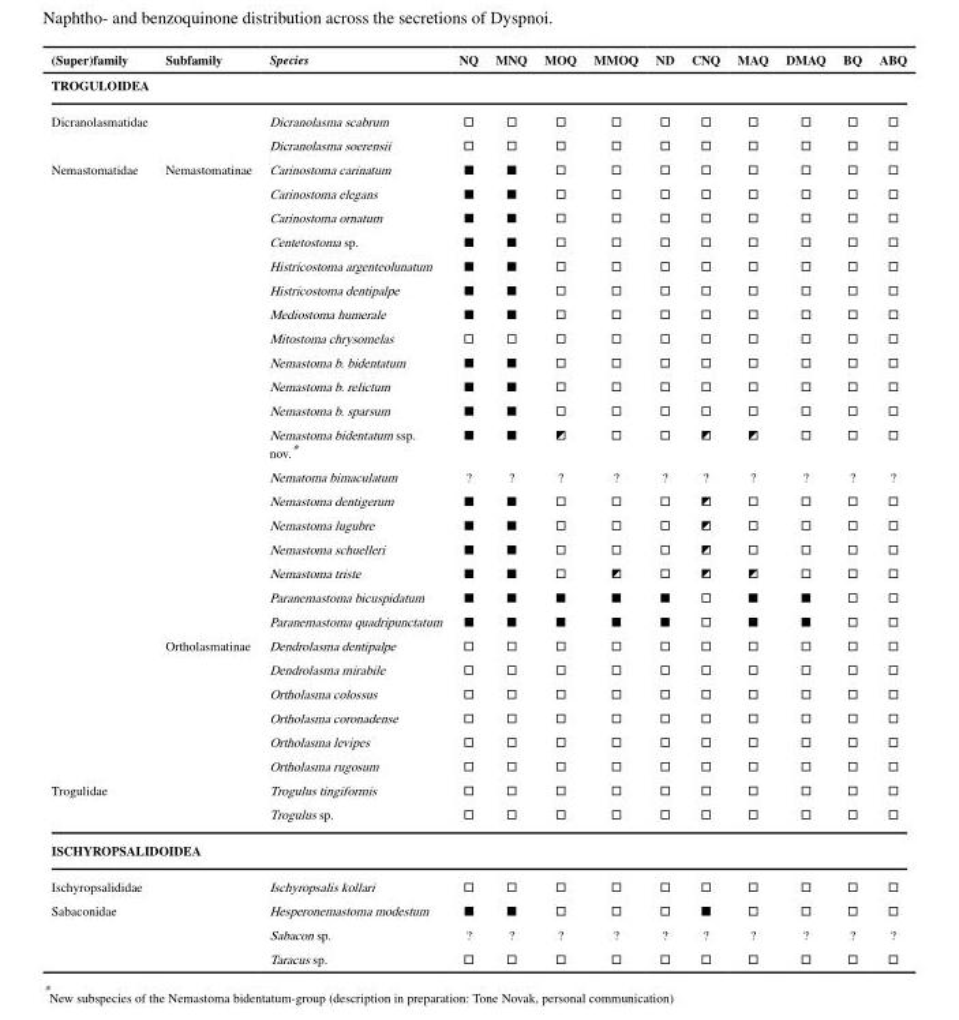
<table><thead><tr><td>(Super)family</td><td>Subfamily</td><td>Species</td><td>NQ</td><td>MNQ</td><td>MOQ</td><td>MMOQ</td><td>ND</td><td>CNQ</td><td>MAQ</td><td>DMAQ</td><td>BQ</td><td>ABQ</td></tr></thead><tbody><tr><td colspan="13">TROGULOIDEA</td></tr><tr><td rowspan="2">Dicranolasmatidae</td><td></td><td>Dicranolasma scabrum</td><td>□</td><td>□</td><td>□</td><td>□</td><td>□</td><td>□</td><td>□</td><td>□</td><td>□</td><td>□</td></tr><tr><td></td><td>Dicranolasma soerensii</td><td>□</td><td>□</td><td>□</td><td>□</td><td>□</td><td>□</td><td>□</td><td>□</td><td>□</td><td>□</td></tr><tr><td rowspan="25">Nemastomatidae</td><td>Nemastomatinae</td><td>Carinostoma carinatum</td><td>■</td><td>■</td><td>□</td><td>□</td><td>□</td><td>□</td><td>□</td><td>□</td><td>□</td><td>□</td></tr><tr><td></td><td>Carinostoma elegans</td><td>■</td><td>■</td><td>□</td><td>□</td><td>□</td><td>□</td><td>□</td><td>□</td><td>□</td><td>□</td></tr><tr><td></td><td>Carinostoma ornatum</td><td>■</td><td>■</td><td>□</td><td>□</td><td>□</td><td>□</td><td>□</td><td>□</td><td>□</td><td>□</td></tr><tr><td></td><td>Centetostoma sp.</td><td>■</td><td>■</td><td>□</td><td>□</td><td>□</td><td>□</td><td>□</td><td>□</td><td>□</td><td>□</td></tr><tr><td></td><td>Histricostoma argenteolunatum</td><td>■</td><td>■</td><td>□</td><td>□</td><td>□</td><td>□</td><td>□</td><td>□</td><td>□</td><td>□</td></tr><tr><td></td><td>Histricostoma dentipalpe</td><td>■</td><td>■</td><td>□</td><td>□</td><td>□</td><td>□</td><td>□</td><td>□</td><td>□</td><td>□</td></tr><tr><td></td><td>Mediostoma humerale</td><td>■</td><td>■</td><td>□</td><td>□</td><td>□</td><td>□</td><td>□</td><td>□</td><td>□</td><td>□</td></tr><tr><td></td><td>Mitostoma chrysomelas</td><td>□</td><td>□</td><td>□</td><td>□</td><td>□</td><td>□</td><td>□</td><td>□</td><td>□</td><td>□</td></tr><tr><td></td><td>Nemastoma b. bidentatum</td><td>■</td><td>■</td><td>□</td><td>□</td><td>□</td><td>□</td><td>□</td><td>□</td><td>□</td><td>□</td></tr><tr><td></td><td>Nemastoma b. relictum</td><td>■</td><td>■</td><td>□</td><td>□</td><td>□</td><td>□</td><td>□</td><td>□</td><td>□</td><td>□</td></tr><tr><td></td><td>Nemastoma b. sparsum</td><td>■</td><td>■</td><td>□</td><td>□</td><td>□</td><td>□</td><td>□</td><td>□</td><td>□</td><td>□</td></tr><tr><td></td><td>Nemastoma bidentatum ssp. nov.*</td><td>■</td><td>■</td><td>◩</td><td>□</td><td>□</td><td>◩</td><td>◩</td><td>□</td><td>□</td><td>□</td></tr><tr><td></td><td>Nematoma bimaculatum</td><td>?</td><td>?</td><td>?</td><td>?</td><td>?</td><td>?</td><td>?</td><td>?</td><td>?</td><td>?</td></tr><tr><td></td><td>Nemastoma dentigerum</td><td>■</td><td>■</td><td>□</td><td>□</td><td>□</td><td>◩</td><td>□</td><td>□</td><td>□</td><td>□</td></tr><tr><td></td><td>Nemastoma lugubre</td><td>■</td><td>■</td><td>□</td><td>□</td><td>□</td><td>◩</td><td>□</td><td>□</td><td>□</td><td>□</td></tr><tr><td></td><td>Nemastoma schuelleri</td><td>■</td><td>■</td><td>□</td><td>□</td><td>□</td><td>◩</td><td>□</td><td>□</td><td>□</td><td>□</td></tr><tr><td></td><td>Nemastoma triste</td><td>■</td><td>■</td><td>□</td><td>◩</td><td>□</td><td>◩</td><td>◩</td><td>□</td><td>□</td><td>□</td></tr><tr><td></td><td>Paranemastoma bicuspidatum</td><td>■</td><td>■</td><td>■</td><td>■</td><td>■</td><td>□</td><td>■</td><td>■</td><td>□</td><td>□</td></tr><tr><td></td><td>Paranemastoma quadripunctatum</td><td>■</td><td>■</td><td>■</td><td>■</td><td>■</td><td>□</td><td>■</td><td>■</td><td>□</td><td>□</td></tr><tr><td>Ortholasmatinae</td><td>Dendrolasma dentipalpe</td><td>□</td><td>□</td><td>□</td><td>□</td><td>□</td><td>□</td><td>□</td><td>□</td><td>□</td><td>□</td></tr><tr><td></td><td>Dendrolasma mirabile</td><td>□</td><td>□</td><td>□</td><td>□</td><td>□</td><td>□</td><td>□</td><td>□</td><td>□</td><td>□</td></tr><tr><td></td><td>Ortholasma colossus</td><td>□</td><td>□</td><td>□</td><td>□</td><td>□</td><td>□</td><td>□</td><td>□</td><td>□</td><td>□</td></tr><tr><td></td><td>Ortholasma coronadense</td><td>□</td><td>□</td><td>□</td><td>□</td><td>□</td><td>□</td><td>□</td><td>□</td><td>□</td><td>□</td></tr><tr><td></td><td>Ortholasma levipes</td><td>□</td><td>□</td><td>□</td><td>□</td><td>□</td><td>□</td><td>□</td><td>□</td><td>□</td><td>□</td></tr><tr><td></td><td>Ortholasma rugosum</td><td>□</td><td>□</td><td>□</td><td>□</td><td>□</td><td>□</td><td>□</td><td>□</td><td>□</td><td>□</td></tr><tr><td rowspan="2">Trogulidae</td><td></td><td>Trogulus tingiformis</td><td>□</td><td>□</td><td>□</td><td>□</td><td>□</td><td>□</td><td>□</td><td>□</td><td>□</td><td>□</td></tr><tr><td></td><td>Trogulus sp.</td><td>□</td><td>□</td><td>□</td><td>□</td><td>□</td><td>□</td><td>□</td><td>□</td><td>□</td><td>□</td></tr><tr><td colspan="13">ISCHYROPSALIDOIDEA</td></tr><tr><td>Ischyropsalididae</td><td></td><td>Ischyropsalis kollari</td><td>□</td><td>□</td><td>□</td><td>□</td><td>□</td><td>□</td><td>□</td><td>□</td><td>□</td><td>□</td></tr><tr><td rowspan="3">Sabaconidae</td><td></td><td>Hesperonemastoma modestum</td><td>■</td><td>■</td><td>□</td><td>□</td><td>□</td><td>■</td><td>□</td><td>□</td><td>□</td><td>□</td></tr><tr><td></td><td>Sabacon sp.</td><td>?</td><td>?</td><td>?</td><td>?</td><td>?</td><td>?</td><td>?</td><td>?</td><td>?</td><td>?</td></tr><tr><td></td><td>Taracus sp.</td><td>□</td><td>□</td><td>□</td><td>□</td><td>□</td><td>□</td><td>□</td><td>□</td><td>□</td><td>□</td></tr></tbody></table>